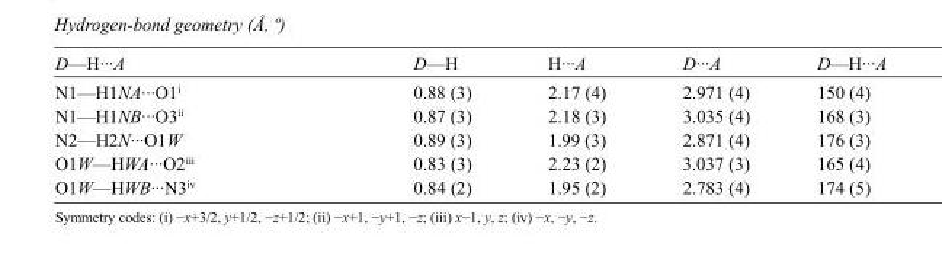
<table><tbody><tr><td>D—H···A</td><td>D—H</td><td>H···A</td><td>D···A</td><td>D—H···A</td></tr><tr><td>N1—H1NA···O1<sup>i</sup></td><td>0.88 (3)</td><td>2.17 (4)</td><td>2.971 (4)</td><td>150 (4)</td></tr><tr><td>N1—H1NB···O3<sup>ii</sup></td><td>0.87 (3)</td><td>2.18 (3)</td><td>3.035 (4)</td><td>168 (3)</td></tr><tr><td>N2—H2N···O1W</td><td>0.89 (3)</td><td>1.99 (3)</td><td>2.871 (4)</td><td>176 (3)</td></tr><tr><td>O1W—HWA···O2<sup>iii</sup></td><td>0.83 (3)</td><td>2.23 (2)</td><td>3.037 (3)</td><td>165 (4)</td></tr><tr><td>O1W—HWB···N3<sup>iv</sup></td><td>0.84 (2)</td><td>1.95 (2)</td><td>2.783 (4)</td><td>174 (5)</td></tr></tbody></table>